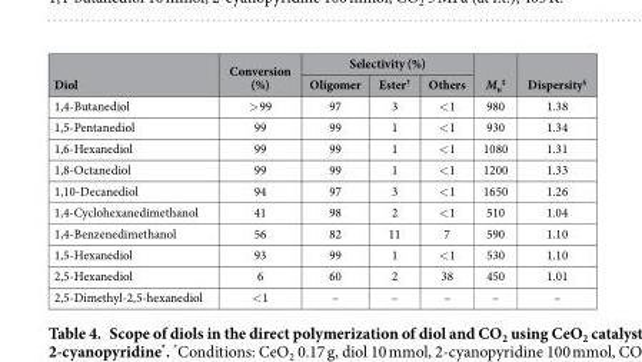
<table><thead><tr><td rowspan="2">Diol</td><td rowspan="2">Conversion (%)</td><td colspan="3">Selectivity (%)</td><td rowspan="2">M<sub>n</sub> ‡</td><td rowspan="2">Dispersity§</td></tr><tr><td>Oligomer</td><td>Ester†</td><td>Others</td></tr></thead><tbody><tr><td>1,4-Butanediol</td><td>&gt; 99</td><td>97</td><td>3</td><td>&lt; 1</td><td>980</td><td>1.38</td></tr><tr><td>1,5-Pentanediol</td><td>99</td><td>99</td><td>1</td><td>&lt; 1</td><td>930</td><td>1.34</td></tr><tr><td>1,6-Hexanediol</td><td>99</td><td>99</td><td>1</td><td>&lt; 1</td><td>1080</td><td>1.31</td></tr><tr><td>1,8-Octanediol</td><td>99</td><td>99</td><td>1</td><td>&lt; 1</td><td>1200</td><td>1.33</td></tr><tr><td>1,10-Decanediol</td><td>94</td><td>97</td><td>3</td><td>&lt; 1</td><td>1650</td><td>1.26</td></tr><tr><td>1,4-Cyclohexanedimethanol</td><td>41</td><td>98</td><td>2</td><td>&lt; 1</td><td>510</td><td>1.04</td></tr><tr><td>1,4-Benzenedimethanol</td><td>56</td><td>82</td><td>11</td><td>7</td><td>590</td><td>1.10</td></tr><tr><td>1,5-Hexanediol</td><td>93</td><td>99</td><td>1</td><td>&lt; 1</td><td>530</td><td>1.10</td></tr><tr><td>2,5-Hexanediol</td><td>6</td><td>60</td><td>2</td><td>38</td><td>450</td><td>1.01</td></tr><tr><td>2,5-Dimethyl-2,5-hexanediol</td><td>&lt; 1</td><td>–</td><td>–</td><td>–</td><td>–</td><td>–</td></tr></tbody></table>